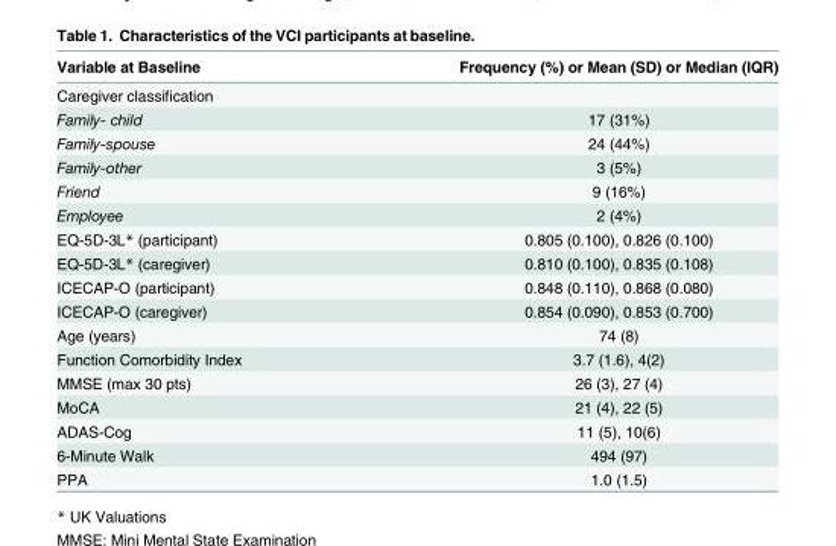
<table><thead><tr><td>Variable at Baseline</td><td>Frequency (%) or Mean (SD) or Median (IQR)</td></tr></thead><tbody><tr><td colspan="2">Caregiver classification</td></tr><tr><td>Family- child</td><td>17 (31%)</td></tr><tr><td>Family-spouse</td><td>24 (44%)</td></tr><tr><td>Family-other</td><td>3 (5%)</td></tr><tr><td>Friend</td><td>9 (16%)</td></tr><tr><td>Employee</td><td>2 (4%)</td></tr><tr><td>EQ-5D-3L* (participant)</td><td>0.805 (0.100), 0.826 (0.100)</td></tr><tr><td>EQ-5D-3L* (caregiver)</td><td>0.810 (0.100), 0.835 (0.108)</td></tr><tr><td>ICECAP-O (participant)</td><td>0.848 (0.110), 0.868 (0.080)</td></tr><tr><td>ICECAP-O (caregiver)</td><td>0.854 (0.090), 0.853 (0.700)</td></tr><tr><td>Age (years)</td><td>74 (8)</td></tr><tr><td>Function Comorbidity Index</td><td>3.7 (1.6), 4(2)</td></tr><tr><td>MMSE (max 30 pts)</td><td>26 (3), 27 (4)</td></tr><tr><td>MoCA</td><td>21 (4), 22 (5)</td></tr><tr><td>ADAS-Cog</td><td>11 (5), 10(6)</td></tr><tr><td>6-Minute Walk</td><td>494 (97)</td></tr><tr><td>PPA</td><td>1.0 (1.5)</td></tr></tbody></table>